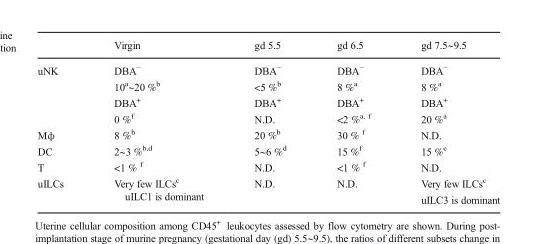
<table><thead><tr><td></td><td>Virgin</td><td>gd 5.5</td><td>gd 6.5</td><td>gd 7.5∼9.5</td></tr></thead><tbody><tr><td rowspan="2">uNK</td><td>DBA<sup>−</sup> 10<sup>a</sup>∼20 %<sup>b</sup></td><td>DBA<sup>−</sup> &lt;5 %<sup>b</sup></td><td>DBA<sup>−</sup> 8 %<sup>a</sup></td><td>DBA<sup>−</sup> 8 %<sup>a</sup></td></tr><tr><td>DBA<sup>+</sup> 0 %<sup>f</sup></td><td>DBA<sup>+</sup> N.D.</td><td>DBA<sup>+</sup> &lt;2 %<sup>a, f</sup></td><td>DBA<sup>+</sup> 20 %<sup>a</sup></td></tr><tr><td>Mϕ</td><td>8 %<sup>b</sup></td><td>20 %<sup>b</sup></td><td>30 % <sup>f</sup></td><td>N.D.</td></tr><tr><td>DC</td><td>2∼3 %<sup>b,d</sup></td><td>5∼6 %<sup>d</sup></td><td>15 %<sup>f</sup></td><td>15 %<sup>e</sup></td></tr><tr><td>T</td><td>&lt;1 % <sup>f</sup></td><td>N.D.</td><td>&lt;1 % <sup>f</sup></td><td>N.D.</td></tr><tr><td>uILCs</td><td>Very few ILCs<sup>c</sup> uILC1 is dominant</td><td>N.D.</td><td>N.D.</td><td>Very few ILCs<sup>c</sup> uILC3 is dominant</td></tr></tbody></table>